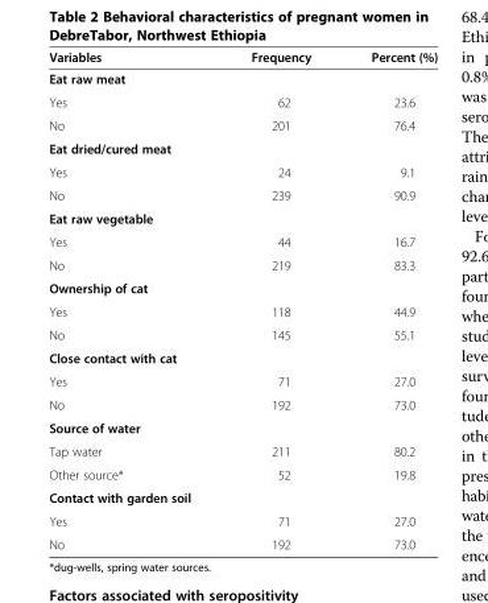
<table><thead><tr><td>Variables</td><td>Frequency</td><td>Percent (%)</td></tr></thead><tbody><tr><td colspan="3">Eat raw meat</td></tr><tr><td>Yes</td><td>62</td><td>23.6</td></tr><tr><td>No</td><td>201</td><td>76.4</td></tr><tr><td colspan="3">Eat dried/cured meat</td></tr><tr><td>Yes</td><td>24</td><td>9.1</td></tr><tr><td>No</td><td>239</td><td>90.9</td></tr><tr><td colspan="3">Eat raw vegetable</td></tr><tr><td>Yes</td><td>44</td><td>16.7</td></tr><tr><td>No</td><td>219</td><td>83.3</td></tr><tr><td colspan="3">Ownership of cat</td></tr><tr><td>Yes</td><td>118</td><td>44.9</td></tr><tr><td>No</td><td>145</td><td>55.1</td></tr><tr><td colspan="3">Close contact with cat</td></tr><tr><td>Yes</td><td>71</td><td>27.0</td></tr><tr><td>No</td><td>192</td><td>73.0</td></tr><tr><td colspan="3">Source of water</td></tr><tr><td>Tap water</td><td>211</td><td>80.2</td></tr><tr><td>Other source*</td><td>52</td><td>19.8</td></tr><tr><td colspan="3">Contact with garden soil</td></tr><tr><td>Yes</td><td>71</td><td>27.0</td></tr><tr><td>No</td><td>192</td><td>73.0</td></tr></tbody></table>